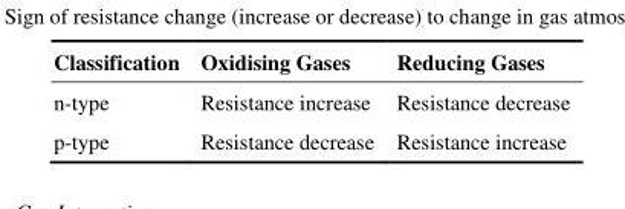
<table><thead><tr><td>Classification</td><td>Oxidising Gases</td><td>Reducing Gases</td></tr></thead><tbody><tr><td>n-type</td><td>Resistance increase</td><td>Resistance decrease</td></tr><tr><td>p-type</td><td>Resistance decrease</td><td>Resistance increase</td></tr></tbody></table>